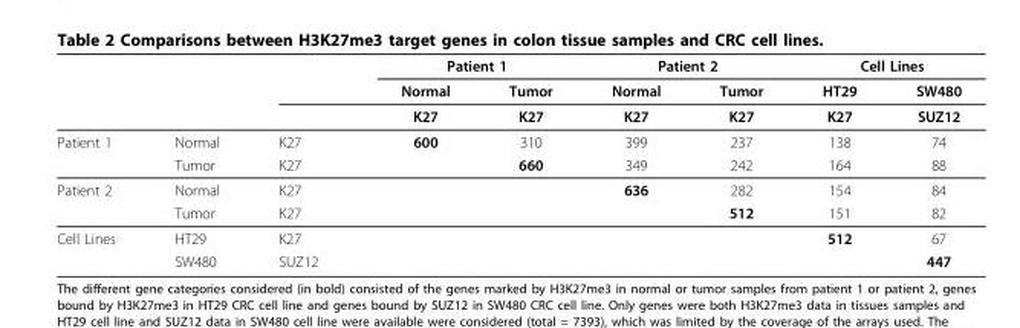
<table><thead><tr><td rowspan="3"></td><td rowspan="3"></td><td rowspan="3"></td><td colspan="2">Patient 1</td><td colspan="2">Patient 2</td><td colspan="2">Cell Lines</td></tr><tr><td rowspan="2">Normal K27</td><td rowspan="2">Tumor K27</td><td rowspan="2">Normal K27</td><td rowspan="2">Tumor K27</td><td rowspan="2">HT29 K27</td><td rowspan="2">SW480 SUZ12</td></tr><tr></tr></thead><tbody><tr><td rowspan="2">Patient 1</td><td>Normal</td><td>K27</td><td>600</td><td>310</td><td>399</td><td>237</td><td>138</td><td>74</td></tr><tr><td>Tumor</td><td>K27</td><td></td><td>660</td><td>349</td><td>242</td><td>164</td><td>88</td></tr><tr><td rowspan="2">Patient 2</td><td>Normal</td><td>K27</td><td></td><td></td><td>636</td><td>282</td><td>154</td><td>84</td></tr><tr><td>Tumor</td><td>K27</td><td></td><td></td><td></td><td>512</td><td>151</td><td>82</td></tr><tr><td rowspan="2">Cell Lines</td><td>HT29</td><td>K27</td><td></td><td></td><td></td><td></td><td>512</td><td>67</td></tr><tr><td>SW480</td><td>SUZ12</td><td></td><td></td><td></td><td></td><td></td><td>447</td></tr></tbody></table>